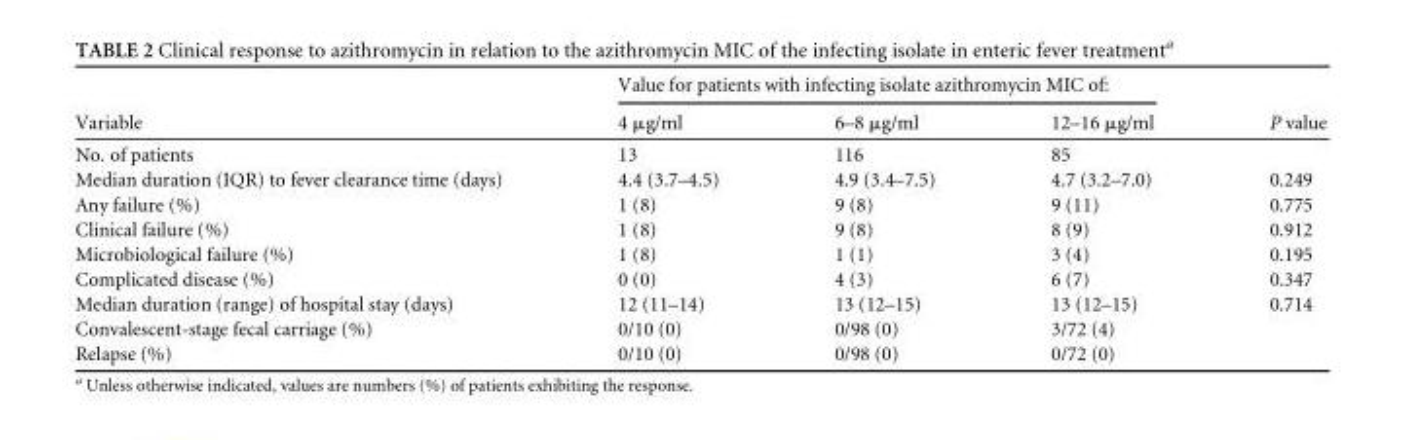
<table><thead><tr><td rowspan="2">Variable</td><td colspan="3">Value for patients with infecting isolate azithromycin MIC of:</td><td rowspan="2">P value</td></tr><tr><td>4 μg/ml</td><td>6–8 μg/ml</td><td>12–16 μg/ml</td></tr></thead><tbody><tr><td>No. of patients</td><td>13</td><td>116</td><td>85</td><td></td></tr><tr><td>Median duration (IQR) to fever clearance time (days)</td><td>4.4 (3.7–4.5)</td><td>4.9 (3.4–7.5)</td><td>4.7 (3.2–7.0)</td><td>0.249</td></tr><tr><td>Any failure (%)</td><td>1 (8)</td><td>9 (8)</td><td>9 (11)</td><td>0.775</td></tr><tr><td>Clinical failure (%)</td><td>1 (8)</td><td>9 (8)</td><td>8 (9)</td><td>0.912</td></tr><tr><td>Microbiological failure (%)</td><td>1 (8)</td><td>1 (1)</td><td>3 (4)</td><td>0.195</td></tr><tr><td>Complicated disease (%)</td><td>0 (0)</td><td>4 (3)</td><td>6 (7)</td><td>0.347</td></tr><tr><td>Median duration (range) of hospital stay (days)</td><td>12 (11–14)</td><td>13 (12–15)</td><td>13 (12–15)</td><td>0.714</td></tr><tr><td>Convalescent-stage fecal carriage (%)</td><td>0/10 (0)</td><td>0/98 (0)</td><td>3/72 (4)</td><td></td></tr><tr><td>Relapse (%)</td><td>0/10 (0)</td><td>0/98 (0)</td><td>0/72 (0)</td><td></td></tr></tbody></table>